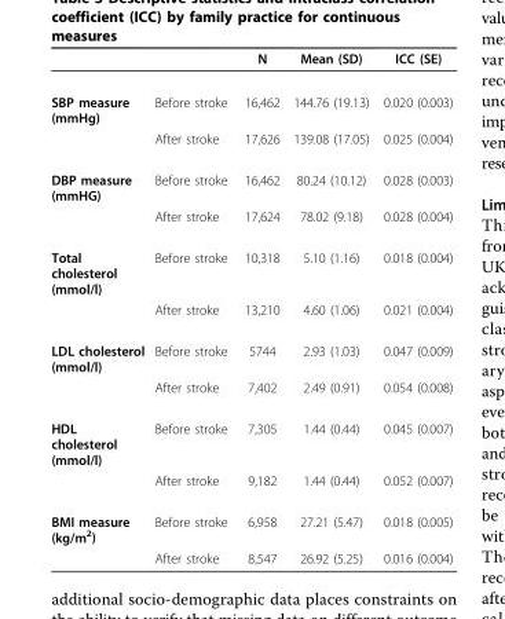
<table><thead><tr><td></td><td></td><td>N</td><td>Mean (SD)</td><td>ICC (SE)</td></tr></thead><tbody><tr><td rowspan="2">SBP measure (mmHg)</td><td>Before stroke</td><td>16,462</td><td>144.76 (19.13)</td><td>0.020 (0.003)</td></tr><tr><td>After stroke</td><td>17,626</td><td>139.08 (17.05)</td><td>0.025 (0.004)</td></tr><tr><td rowspan="2">DBP measure (mmHG)</td><td>Before stroke</td><td>16,462</td><td>80.24 (10.12)</td><td>0.028 (0.003)</td></tr><tr><td>After stroke</td><td>17,624</td><td>78.02 (9.18)</td><td>0.028 (0.004)</td></tr><tr><td rowspan="2">Total cholesterol (mmol/l)</td><td>Before stroke</td><td>10,318</td><td>5.10 (1.16)</td><td>0.018 (0.004)</td></tr><tr><td>After stroke</td><td>13,210</td><td>4.60 (1.06)</td><td>0.021 (0.004)</td></tr><tr><td rowspan="2">LDL cholesterol (mmol/l)</td><td>Before stroke</td><td>5744</td><td>2.93 (1.03)</td><td>0.047 (0.009)</td></tr><tr><td>After stroke</td><td>7,402</td><td>2.49 (0.91)</td><td>0.054 (0.008)</td></tr><tr><td rowspan="2">HDL cholesterol (mmol/l)</td><td>Before stroke</td><td>7,305</td><td>1.44 (0.44)</td><td>0.045 (0.007)</td></tr><tr><td>After stroke</td><td>9,182</td><td>1.44 (0.44)</td><td>0.052 (0.007)</td></tr><tr><td rowspan="2">BMI measure (kg/m<sup>2</sup>)</td><td>Before stroke</td><td>6,958</td><td>27.21 (5.47)</td><td>0.018 (0.005)</td></tr><tr><td>After stroke</td><td>8,547</td><td>26.92 (5.25)</td><td>0.016 (0.004)</td></tr></tbody></table>